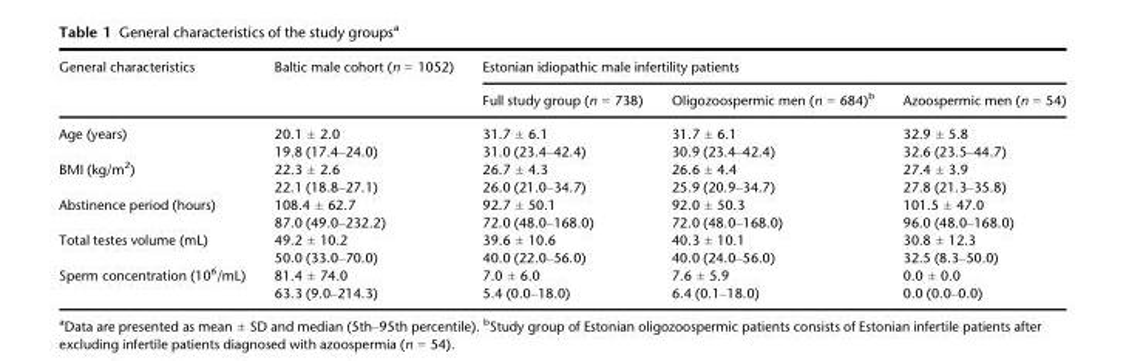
<table><thead><tr><td rowspan="2">General characteristics</td><td rowspan="2">Baltic male cohort (n = 1052)</td><td colspan="3">Estonian idiopathic male infertility patients</td></tr><tr><td>Full study group (n = 738)</td><td>Oligozoospermic men (n = 684)<sup>b</sup></td><td>Azoospermic men (n = 54)</td></tr></thead><tbody><tr><td>Age (years)</td><td>20.1 ± 2.0 19.8 (17.4–24.0)</td><td>31.7 ± 6.1 31.0 (23.4–42.4)</td><td>31.7 ± 6.1 30.9 (23.4–42.4)</td><td>32.9 ± 5.8 32.6 (23.5–44.7)</td></tr><tr><td>BMI (kg/m<sup>2</sup>)</td><td>22.3 ± 2.6 22.1 (18.8–27.1)</td><td>26.7 ± 4.3 26.0 (21.0–34.7)</td><td>26.6 ± 4.4 25.9 (20.9–34.7)</td><td>27.4 ± 3.9 27.8 (21.3–35.8)</td></tr><tr><td>Abstinence period (hours)</td><td>108.4 ± 62.7 87.0 (49.0–232.2)</td><td>92.7 ± 50.1 72.0 (48.0–168.0)</td><td>92.0 ± 50.3 72.0 (48.0–168.0)</td><td>101.5 ± 47.0 96.0 (48.0–168.0)</td></tr><tr><td>Total testes volume (mL)</td><td>49.2 ± 10.2 50.0 (33.0–70.0)</td><td>39.6 ± 10.6 40.0 (22.0–56.0)</td><td>40.3 ± 10.1 40.0 (24.0–56.0)</td><td>30.8 ± 12.3 32.5 (8.3–50.0)</td></tr><tr><td>Sperm concentration (10<sup>6</sup>/mL)</td><td>81.4 ± 74.0 63.3 (9.0–214.3)</td><td>7.0 ± 6.0 5.4 (0.0–18.0)</td><td>7.6 ± 5.9 6.4 (0.1–18.0)</td><td>0.0 ± 0.0 0.0 (0.0–0.0)</td></tr></tbody></table>